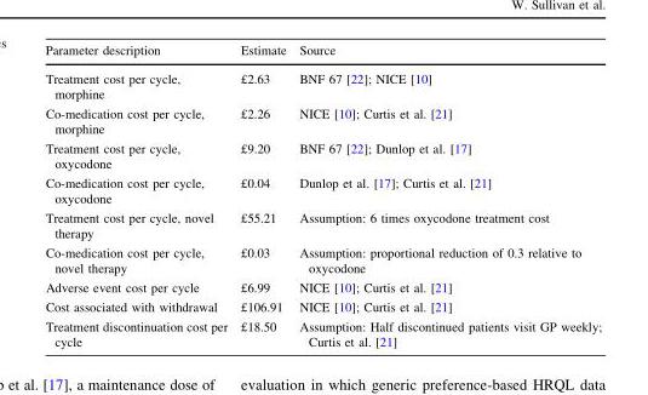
<table><thead><tr><td>Parameter description</td><td>Estimate</td><td>Source</td></tr></thead><tbody><tr><td>Treatment cost per cycle, morphine</td><td>£2.63</td><td>BNF 67 [22]; NICE [10]</td></tr><tr><td>Co-medication cost per cycle, morphine</td><td>£2.26</td><td>NICE [10]; Curtis et al. [21]</td></tr><tr><td>Treatment cost per cycle, oxycodone</td><td>£9.20</td><td>BNF 67 [22]; Dunlop et al. [17]</td></tr><tr><td>Co-medication cost per cycle, oxycodone</td><td>£0.04</td><td>Dunlop et al. [17]; Curtis et al. [21]</td></tr><tr><td>Treatment cost per cycle, novel therapy</td><td>£55.21</td><td>Assumption: 6 times oxycodone treatment cost</td></tr><tr><td>Co-medication cost per cycle, novel therapy</td><td>£0.03</td><td>Assumption: proportional reduction of 0.3 relative to oxycodone</td></tr><tr><td>Adverse event cost per cycle</td><td>£6.99</td><td>NICE [10]; Curtis et al. [21]</td></tr><tr><td>Cost associated with withdrawal</td><td>£106.91</td><td>NICE [10]; Curtis et al. [21]</td></tr><tr><td>Treatment discontinuation cost per cycle</td><td>£18.50</td><td>Assumption: Half discontinued patients visit GP weekly; Curtis et al. [21]</td></tr></tbody></table>